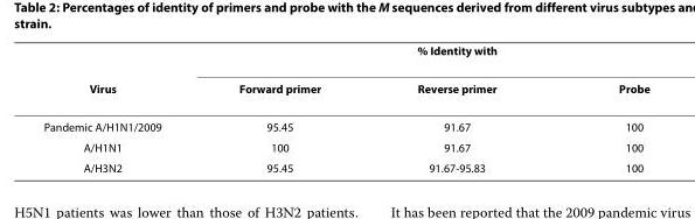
<table><thead><tr><td rowspan="2">Virus</td><td colspan="3">% Identity with</td></tr><tr><td>Forward primer</td><td>Reverse primer</td><td>Probe</td></tr></thead><tbody><tr><td>Pandemic A/H1N1/2009</td><td>95.45</td><td>91.67</td><td>100</td></tr><tr><td>A/H1N1</td><td>100</td><td>91.67</td><td>100</td></tr><tr><td>A/H3N2</td><td>95.45</td><td>91.67-95.83</td><td>100</td></tr></tbody></table>